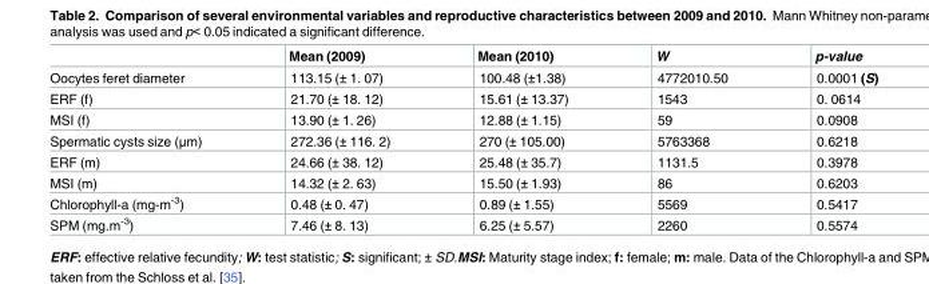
<table><thead><tr><td></td><td>Mean (2009)</td><td>Mean (2010)</td><td>W</td><td>p-value</td></tr></thead><tbody><tr><td>Oocytes feret diameter</td><td>113.15 (± 1. 07)</td><td>100.48 (±1.38)</td><td>4772010.50</td><td>0.0001 (S)</td></tr><tr><td>ERF (f)</td><td>21.70 (± 18. 12)</td><td>15.61 (± 13.37)</td><td>1543</td><td>0. 0614</td></tr><tr><td>MSI (f)</td><td>13.90 (± 1. 26)</td><td>12.88 (± 1.15)</td><td>59</td><td>0.0908</td></tr><tr><td>Spermatic cysts size (μm)</td><td>272.36 (± 116. 2)</td><td>270 (± 105.00)</td><td>5763368</td><td>0.6218</td></tr><tr><td>ERF (m)</td><td>24.66 (± 38. 12)</td><td>25.48 (± 35.7)</td><td>1131.5</td><td>0.3978</td></tr><tr><td>MSI (m)</td><td>14.32 (± 2. 63)</td><td>15.50 (± 1.93)</td><td>86</td><td>0.6203</td></tr><tr><td>Chlorophyll-a (mg-m<sup>-3</sup>)</td><td>0.48 (± 0. 47)</td><td>0.89 (± 1.55)</td><td>5569</td><td>0.5417</td></tr><tr><td>SPM (mg.m<sup>-3</sup>)</td><td>7.46 (± 8. 13)</td><td>6.25 (± 5.57)</td><td>2260</td><td>0.5574</td></tr></tbody></table>